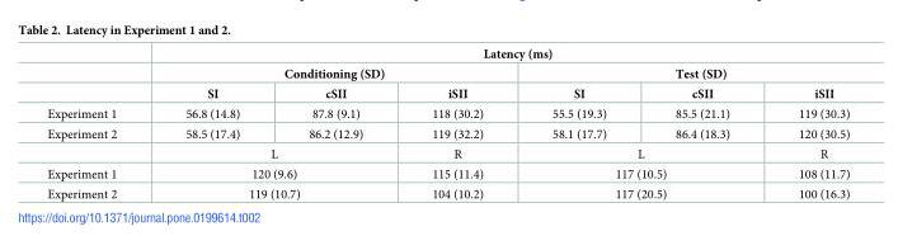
<table><thead><tr><td rowspan="3"></td><td colspan="6">Latency (ms)</td></tr><tr><td colspan="3">Conditioning (SD)</td><td colspan="3">Test (SD)</td></tr><tr><td>SI</td><td>cSII</td><td>iSII</td><td>SI</td><td>cSII</td><td>iSII</td></tr></thead><tbody><tr><td>Experiment 1</td><td>56.8 (14.8)</td><td>87.8 (9.1)</td><td>118 (30.2)</td><td>55.5 (19.3)</td><td>85.5 (21.1)</td><td>119 (30.3)</td></tr><tr><td rowspan="2">Experiment 2</td><td>58.5 (17.4)</td><td>86.2 (12.9)</td><td>119 (32.2)</td><td>58.1 (17.7)</td><td>86.4 (18.3)</td><td>120 (30.5)</td></tr><tr><td colspan="2">L</td><td>R</td><td colspan="2">L</td><td>R</td></tr><tr><td>Experiment 1</td><td colspan="2">120 (9.6)</td><td>115 (11.4)</td><td colspan="2">117 (10.5)</td><td>108 (11.7)</td></tr><tr><td>Experiment 2</td><td colspan="2">119 (10.7)</td><td>104 (10.2)</td><td colspan="2">117 (20.5)</td><td>100 (16.3)</td></tr></tbody></table>